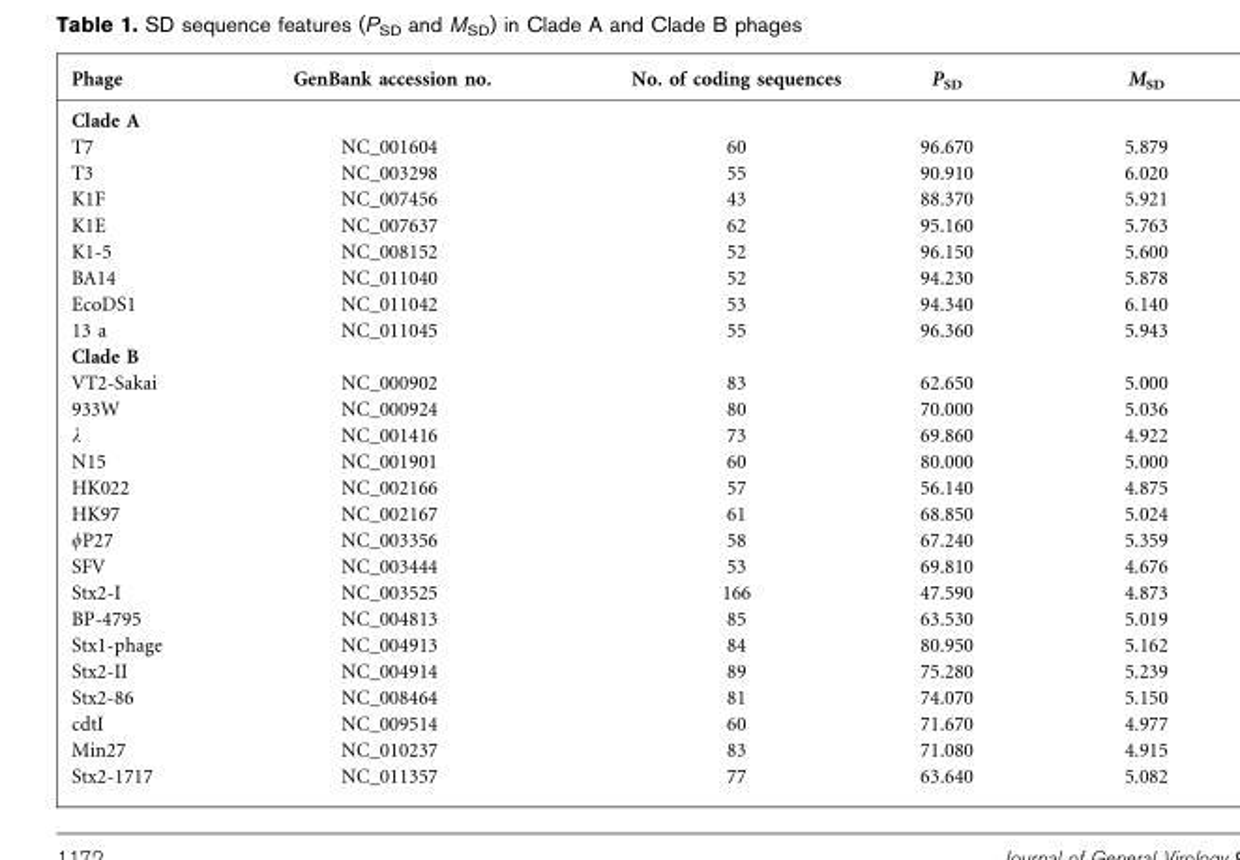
<table><thead><tr><td>Phage</td><td>GenBank accession no.</td><td>No. of coding sequences</td><td>P<sub>SD</sub></td><td>M<sub>SD</sub></td></tr></thead><tbody><tr><td colspan="5">Clade A</td></tr><tr><td>T7</td><td>NC_001604</td><td>60</td><td>96.670</td><td>5.879</td></tr><tr><td>T3</td><td>NC_003298</td><td>55</td><td>90.910</td><td>6.020</td></tr><tr><td>K1F</td><td>NC_007456</td><td>43</td><td>88.370</td><td>5.921</td></tr><tr><td>K1E</td><td>NC_007637</td><td>62</td><td>95.160</td><td>5.763</td></tr><tr><td>K1-5</td><td>NC_008152</td><td>52</td><td>96.150</td><td>5.600</td></tr><tr><td>BA14</td><td>NC_011040</td><td>52</td><td>94.230</td><td>5.878</td></tr><tr><td>EcoDS1</td><td>NC_011042</td><td>53</td><td>94.340</td><td>6.140</td></tr><tr><td>13 a</td><td>NC_011045</td><td>55</td><td>96.360</td><td>5.943</td></tr><tr><td colspan="5">Clade B</td></tr><tr><td>VT2-Sakai</td><td>NC_000902</td><td>83</td><td>62.650</td><td>5.000</td></tr><tr><td>933W</td><td>NC_000924</td><td>80</td><td>70.000</td><td>5.036</td></tr><tr><td>λ</td><td>NC_001416</td><td>73</td><td>69.860</td><td>4.922</td></tr><tr><td>N15</td><td>NC_001901</td><td>60</td><td>80.000</td><td>5.000</td></tr><tr><td>HK022</td><td>NC_002166</td><td>57</td><td>56.140</td><td>4.875</td></tr><tr><td>HK97</td><td>NC_002167</td><td>61</td><td>68.850</td><td>5.024</td></tr><tr><td>ϕP27</td><td>NC_003356</td><td>58</td><td>67.240</td><td>5.359</td></tr><tr><td>SFV</td><td>NC_003444</td><td>53</td><td>69.810</td><td>4.676</td></tr><tr><td>Stx2-I</td><td>NC_003525</td><td>166</td><td>47.590</td><td>4.873</td></tr><tr><td>BP-4795</td><td>NC_004813</td><td>85</td><td>63.530</td><td>5.019</td></tr><tr><td>Stx1-phage</td><td>NC_004913</td><td>84</td><td>80.950</td><td>5.162</td></tr><tr><td>Stx2-II</td><td>NC_004914</td><td>89</td><td>75.280</td><td>5.239</td></tr><tr><td>Stx2-86</td><td>NC_008464</td><td>81</td><td>74.070</td><td>5.150</td></tr><tr><td>cdtI</td><td>NC_009514</td><td>60</td><td>71.670</td><td>4.977</td></tr><tr><td>Min27</td><td>NC_010237</td><td>83</td><td>71.080</td><td>4.915</td></tr><tr><td>Stx2-1717</td><td>NC_011357</td><td>77</td><td>63.640</td><td>5.082</td></tr></tbody></table>